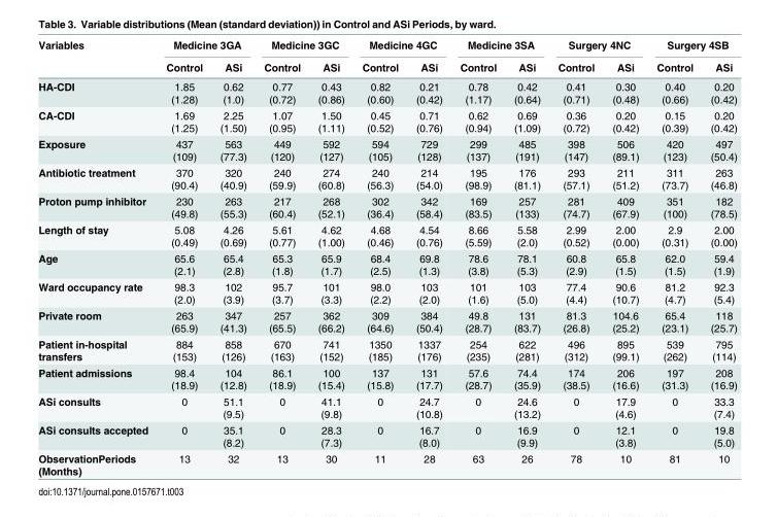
<table><thead><tr><td rowspan="2">Variables</td><td colspan="2">Medicine 3GA</td><td colspan="2">Medicine 3GC</td><td colspan="2">Medicine 4GC</td><td colspan="2">Medicine 3SA</td><td colspan="2">Surgery 4NC</td><td colspan="2">Surgery 4SB</td></tr><tr><td>Control</td><td>ASi</td><td>Control</td><td>ASi</td><td>Control</td><td>ASi</td><td>Control</td><td>ASi</td><td>Control</td><td>ASi</td><td>Control</td><td>ASi</td></tr></thead><tbody><tr><td>HA-CDI</td><td>1.85 (1.28)</td><td>0.62 (1.0)</td><td>0.77 (0.72)</td><td>0.43 (0.86)</td><td>0.82 (0.60)</td><td>0.21 (0.42)</td><td>0.78 (1.17)</td><td>0.42 (0.64)</td><td>0.41 (0.71)</td><td>0.30 (0.48)</td><td>0.40 (0.66)</td><td>0.20 (0.42)</td></tr><tr><td>CA-CDI</td><td>1.69 (1.25)</td><td>2.25 (1.50)</td><td>1.07 (0.95)</td><td>1.50 (1.11)</td><td>0.45 (0.52)</td><td>0.71 (0.76)</td><td>0.62 (0.94)</td><td>0.69 (1.09)</td><td>0.36 (0.72)</td><td>0.20 (0.42)</td><td>0.15 (0.39)</td><td>0.20 (0.42)</td></tr><tr><td>Exposure</td><td>437 (109)</td><td>563 (77.3)</td><td>449 (120)</td><td>592 (127)</td><td>594 (105)</td><td>729 (128)</td><td>299 (137)</td><td>485 (191)</td><td>398 (147)</td><td>506 (89.1)</td><td>420 (123)</td><td>497 (50.4)</td></tr><tr><td>Antibiotic treatment</td><td>370 (90.4)</td><td>320 (40.9)</td><td>240 (59.9)</td><td>274 (60.8)</td><td>240 (56.3)</td><td>214 (54.0)</td><td>195 (98.9)</td><td>176 (81.1)</td><td>293 (57.1)</td><td>211 (51.2)</td><td>311 (73.7)</td><td>263 (46.8)</td></tr><tr><td>Proton pump inhibitor</td><td>230 (49.8)</td><td>263 (55.3)</td><td>217 (60.4)</td><td>268 (52.1)</td><td>302 (36.4)</td><td>342 (58.4)</td><td>169 (83.5)</td><td>257 (133)</td><td>281 (74.7)</td><td>409 (67.9)</td><td>351 (100)</td><td>182 (78.5)</td></tr><tr><td>Length of stay</td><td>5.08 (0.49)</td><td>4.26 (0.69)</td><td>5.61 (0.77)</td><td>4.62 (1.00)</td><td>4.68 (0.46)</td><td>4.54 (0.76)</td><td>8.66 (5.59)</td><td>5.58 (2.0)</td><td>2.99 (0.52)</td><td>2.00 (0.00)</td><td>2.9 (0.31)</td><td>2.00 (0.00)</td></tr><tr><td>Age</td><td>65.6 (2.1)</td><td>65.4 (2.8)</td><td>65.3 (1.8)</td><td>65.9 (1.7)</td><td>68.4 (2.5)</td><td>69.8 (1.3)</td><td>78.6 (3.8)</td><td>78.1 (5.3)</td><td>60.8 (2.9)</td><td>65.8 (1.5)</td><td>62.0 (1.5)</td><td>59.4 (1.9)</td></tr><tr><td>Ward occupancy rate</td><td>98.3 (2.0)</td><td>102 (3.9)</td><td>95.7 (3.7)</td><td>101 (3.3)</td><td>98.0 (2.2)</td><td>103 (2.0)</td><td>101 (1.6)</td><td>103 (5.0)</td><td>77.4 (4.4)</td><td>90.6 (10.7)</td><td>81.2 (4.7)</td><td>92.3 (5.4)</td></tr><tr><td>Private room</td><td>263 (65.9)</td><td>347 (41.3)</td><td>257 (65.5)</td><td>362 (66.2)</td><td>309 (64.6)</td><td>384 (50.4)</td><td>49.8 (28.7)</td><td>131 (83.7)</td><td>81.3 (26.8)</td><td>104.6 (25.2)</td><td>65.4 (23.1)</td><td>118 (25.7)</td></tr><tr><td>Patient in-hospital transfers</td><td>884 (153)</td><td>858 (126)</td><td>670 (163)</td><td>741 (152)</td><td>1350 (185)</td><td>1337 (176)</td><td>254 (235)</td><td>622 (281)</td><td>496 (312)</td><td>895 (99.1)</td><td>539 (262)</td><td>795 (114)</td></tr><tr><td>Patient admissions</td><td>98.4 (18.9)</td><td>104 (12.8)</td><td>86.1 (18.9)</td><td>100 (15.4)</td><td>137 (15.8)</td><td>131 (17.7)</td><td>57.6 (28.7)</td><td>74.4 (35.9)</td><td>174 (38.5)</td><td>206 (16.6)</td><td>197 (31.3)</td><td>208 (16.9)</td></tr><tr><td>ASi consults</td><td>0</td><td>51.1 (9.5)</td><td>0</td><td>41.1 (9.8)</td><td>0</td><td>24.7 (10.8)</td><td>0</td><td>24.6 (13.2)</td><td>0</td><td>17.9 (4.6)</td><td>0</td><td>33.3 (7.4)</td></tr><tr><td>ASi consults accepted</td><td>0</td><td>35.1 (8.2)</td><td>0</td><td>28.3 (7.3)</td><td>0</td><td>16.7 (8.0)</td><td>0</td><td>16.9 (9.9)</td><td>0</td><td>12.1 (3.8)</td><td>0</td><td>19.8 (5.0)</td></tr><tr><td>ObservationPeriods (Months)</td><td>13</td><td>32</td><td>13</td><td>30</td><td>11</td><td>28</td><td>63</td><td>26</td><td>78</td><td>10</td><td>81</td><td>10</td></tr></tbody></table>